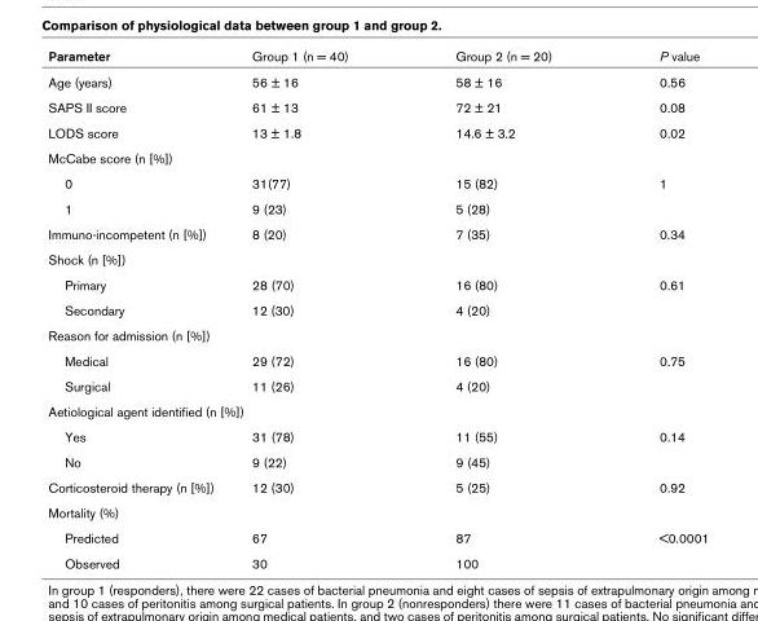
<table><thead><tr><td>Parameter</td><td>Group 1 (n = 40)</td><td>Group 2 (n = 20)</td><td>P value</td></tr></thead><tbody><tr><td>Age (years)</td><td>56 ± 16</td><td>58 ± 16</td><td>0.56</td></tr><tr><td>SAPS II score</td><td>61 ± 13</td><td>72 ± 21</td><td>0.08</td></tr><tr><td>LODS score</td><td>13 ± 1.8</td><td>14.6 ± 3.2</td><td>0.02</td></tr><tr><td colspan="4">McCabe score (n [%])</td></tr><tr><td>0</td><td>31(77)</td><td>15 (82)</td><td>1</td></tr><tr><td>1</td><td>9 (23)</td><td>5 (28)</td><td></td></tr><tr><td>Immuno-incompetent (n [%])</td><td>8 (20)</td><td>7 (35)</td><td>0.34</td></tr><tr><td colspan="4">Shock (n [%])</td></tr><tr><td>Primary</td><td>28 (70)</td><td>16 (80)</td><td>0.61</td></tr><tr><td>Secondary</td><td>12 (30)</td><td>4 (20)</td><td></td></tr><tr><td colspan="4">Reason for admission (n [%])</td></tr><tr><td>Medical</td><td>29 (72)</td><td>16 (80)</td><td>0.75</td></tr><tr><td>Surgical</td><td>11 (26)</td><td>4 (20)</td><td></td></tr><tr><td colspan="4">Aetiological agent identified (n [%])</td></tr><tr><td>Yes</td><td>31 (78)</td><td>11 (55)</td><td>0.14</td></tr><tr><td>No</td><td>9 (22)</td><td>9 (45)</td><td></td></tr><tr><td>Corticosteroid therapy (n [%])</td><td>12 (30)</td><td>5 (25)</td><td>0.92</td></tr><tr><td colspan="4">Mortality (%)</td></tr><tr><td>Predicted</td><td>67</td><td>87</td><td>&lt;0.0001</td></tr><tr><td>Observed</td><td>30</td><td>100</td><td></td></tr></tbody></table>